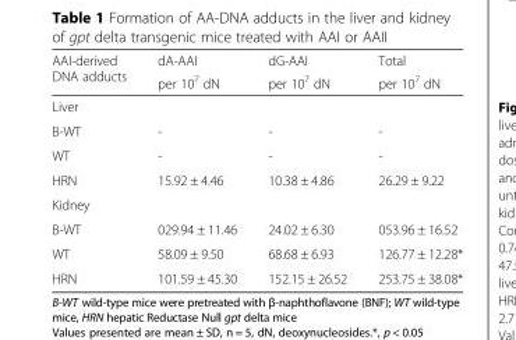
<table><thead><tr><td rowspan="2">AAI-derived DNA adducts</td><td rowspan="2">dA-AAI per 10<sup>7</sup> dN</td><td rowspan="2">dG-AAI per 10<sup>7</sup> dN</td><td rowspan="2">Total per 10<sup>7</sup> dN</td></tr><tr></tr></thead><tbody><tr><td colspan="4">Liver</td></tr><tr><td>B-WT</td><td>-</td><td>-</td><td>-</td></tr><tr><td>WT</td><td>-</td><td>-</td><td>-</td></tr><tr><td>HRN</td><td>15.92 ± 4.46</td><td>10.38 ± 4.86</td><td>26.29 ± 9.22</td></tr><tr><td colspan="4">Kidney</td></tr><tr><td>B-WT</td><td>029.94 ± 11.46</td><td>24.02 ± 6.30</td><td>053.96 ± 16.52</td></tr><tr><td>WT</td><td>58.09 ± 9.50</td><td>68.68 ± 6.93</td><td>126.77 ± 12.28*</td></tr><tr><td>HRN</td><td>101.59 ± 45.30</td><td>152.15 ± 26.52</td><td>253.75 ± 38.08*</td></tr></tbody></table>